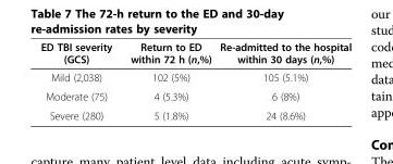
<table><thead><tr><td>ED TBI severity (GCS)</td><td>Return to ED within 72 h (n,%)</td><td>Re-admitted to the hospital within 30 days (n,%)</td></tr></thead><tbody><tr><td>Mild (2,038)</td><td>102 (5%)</td><td>105 (5.1%)</td></tr><tr><td>Moderate (75)</td><td>4 (5.3%)</td><td>6 (8%)</td></tr><tr><td>Severe (280)</td><td>5 (1.8%)</td><td>24 (8.6%)</td></tr></tbody></table>